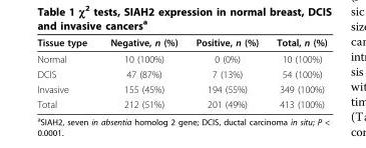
<table><thead><tr><td>Tissue type</td><td>Negative, n (%)</td><td>Positive, n (%)</td><td>Total, n (%)</td></tr></thead><tbody><tr><td>Normal</td><td>10 (100%)</td><td>0 (0%)</td><td>10 (100%)</td></tr><tr><td>DCIS</td><td>47 (87%)</td><td>7 (13%)</td><td>54 (100%)</td></tr><tr><td>Invasive</td><td>155 (45%)</td><td>194 (55%)</td><td>349 (100%)</td></tr><tr><td>Total</td><td>212 (51%)</td><td>201 (49%)</td><td>413 (100%)</td></tr></tbody></table>